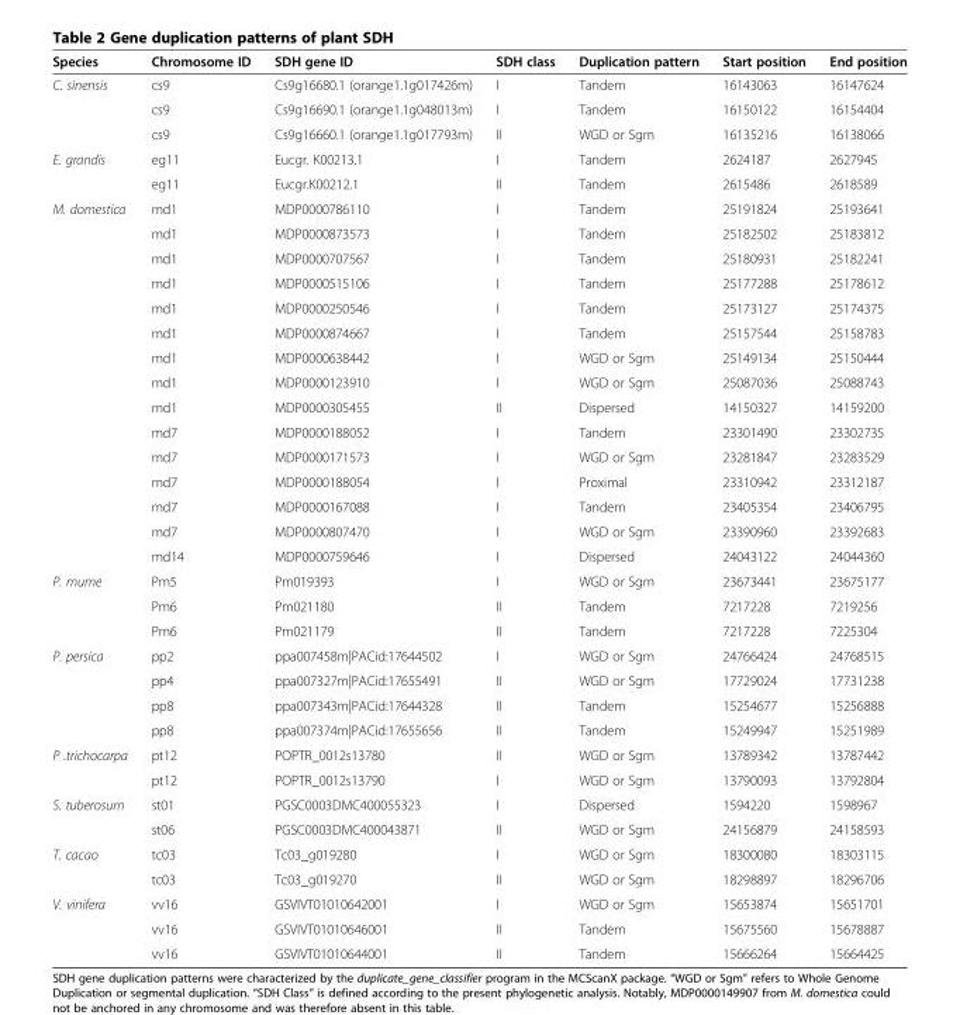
<table><thead><tr><td>Species</td><td>Chromosome ID</td><td>SDH gene ID</td><td>SDH class</td><td>Duplication pattern</td><td>Start position</td><td>End position</td></tr></thead><tbody><tr><td rowspan="3">C. sinensis</td><td>cs9</td><td>Cs9g16680.1 (orange1.1g017426m)</td><td>I</td><td>Tandem</td><td>16143063</td><td>16147624</td></tr><tr><td>cs9</td><td>Cs9g16690.1 (orange1.1g048013m)</td><td>I</td><td>Tandem</td><td>16150122</td><td>16154404</td></tr><tr><td>cs9</td><td>Cs9g16660.1 (orange1.1g017793m)</td><td>II</td><td>WGD or Sgm</td><td>16135216</td><td>16138066</td></tr><tr><td rowspan="2">E. grandis</td><td>eg11</td><td>Eucgr. K00213.1</td><td>I</td><td>Tandem</td><td>2624187</td><td>2627945</td></tr><tr><td>eg11</td><td>Eucgr.K00212.1</td><td>II</td><td>Tandem</td><td>2615486</td><td>2618589</td></tr><tr><td rowspan="15">M. domestica</td><td>md1</td><td>MDP0000786110</td><td>I</td><td>Tandem</td><td>25191824</td><td>25193641</td></tr><tr><td>md1</td><td>MDP0000873573</td><td>I</td><td>Tandem</td><td>25182502</td><td>25183812</td></tr><tr><td>md1</td><td>MDP0000707567</td><td>I</td><td>Tandem</td><td>25180931</td><td>25182241</td></tr><tr><td>md1</td><td>MDP0000515106</td><td>I</td><td>Tandem</td><td>25177288</td><td>25178612</td></tr><tr><td>md1</td><td>MDP0000250546</td><td>I</td><td>Tandem</td><td>25173127</td><td>25174375</td></tr><tr><td>md1</td><td>MDP0000874667</td><td>I</td><td>Tandem</td><td>25157544</td><td>25158783</td></tr><tr><td>md1</td><td>MDP0000638442</td><td>I</td><td>WGD or Sgm</td><td>25149134</td><td>25150444</td></tr><tr><td>md1</td><td>MDP0000123910</td><td>I</td><td>WGD or Sgm</td><td>25087036</td><td>25088743</td></tr><tr><td>md1</td><td>MDP0000305455</td><td>II</td><td>Dispersed</td><td>14150327</td><td>14159200</td></tr><tr><td>md7</td><td>MDP0000188052</td><td>I</td><td>Tandem</td><td>23301490</td><td>23302735</td></tr><tr><td>md7</td><td>MDP0000171573</td><td>I</td><td>WGD or Sgm</td><td>23281847</td><td>23283529</td></tr><tr><td>md7</td><td>MDP0000188054</td><td>I</td><td>Proximal</td><td>23310942</td><td>23312187</td></tr><tr><td>md7</td><td>MDP0000167088</td><td>I</td><td>Tandem</td><td>23405354</td><td>23406795</td></tr><tr><td>md7</td><td>MDP0000807470</td><td>I</td><td>WGD or Sgm</td><td>23390960</td><td>23392683</td></tr><tr><td>md14</td><td>MDP0000759646</td><td>I</td><td>Dispersed</td><td>24043122</td><td>24044360</td></tr><tr><td rowspan="3">P. mume</td><td>Pm5</td><td>Pm019393</td><td>I</td><td>WGD or Sgm</td><td>23673441</td><td>23675177</td></tr><tr><td>Pm6</td><td>Pm021180</td><td>II</td><td>Tandem</td><td>7217228</td><td>7219256</td></tr><tr><td>Pm6</td><td>Pm021179</td><td>II</td><td>Tandem</td><td>7217228</td><td>7225304</td></tr><tr><td rowspan="4">P. persica</td><td>pp2</td><td>ppa007458m|PACid:17644502</td><td>I</td><td>WGD or Sgm</td><td>24766424</td><td>24768515</td></tr><tr><td>pp4</td><td>ppa007327m|PACid:17655491</td><td>II</td><td>WGD or Sgm</td><td>17729024</td><td>17731238</td></tr><tr><td>pp8</td><td>ppa007343m|PACid:17644328</td><td>II</td><td>Tandem</td><td>15254677</td><td>15256888</td></tr><tr><td>pp8</td><td>ppa007374m|PACid:17655656</td><td>II</td><td>Tandem</td><td>15249947</td><td>15251989</td></tr><tr><td rowspan="2">P .trichocarpa</td><td>pt12</td><td>POPTR_0012s13780</td><td>II</td><td>WGD or Sgm</td><td>13789342</td><td>13787442</td></tr><tr><td>pt12</td><td>POPTR_0012s13790</td><td>I</td><td>WGD or Sgm</td><td>13790093</td><td>13792804</td></tr><tr><td rowspan="2">S. tuberosum</td><td>st01</td><td>PGSC0003DMC400055323</td><td>I</td><td>Dispersed</td><td>1594220</td><td>1598967</td></tr><tr><td>st06</td><td>PGSC0003DMC400043871</td><td>II</td><td>WGD or Sgm</td><td>24156879</td><td>24158593</td></tr><tr><td rowspan="2">T. cacao</td><td>tc03</td><td>Tc03_g019280</td><td>I</td><td>WGD or Sgm</td><td>18300080</td><td>18303115</td></tr><tr><td>tc03</td><td>Tc03_g019270</td><td>II</td><td>WGD or Sgm</td><td>18298897</td><td>18296706</td></tr><tr><td rowspan="3">V. vinifera</td><td>vv16</td><td>GSVIVT01010642001</td><td>I</td><td>WGD or Sgm</td><td>15653874</td><td>15651701</td></tr><tr><td>vv16</td><td>GSVIVT01010646001</td><td>II</td><td>Tandem</td><td>15675560</td><td>15678887</td></tr><tr><td>vv16</td><td>GSVIVT01010644001</td><td>II</td><td>Tandem</td><td>15666264</td><td>15664425</td></tr></tbody></table>